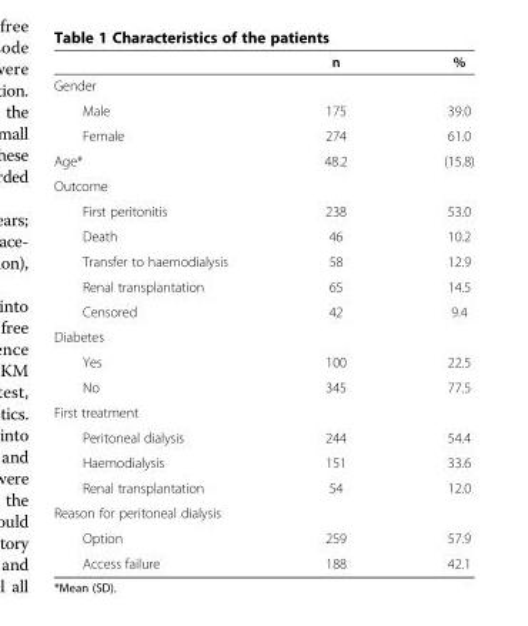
<table><thead><tr><td></td><td>n</td><td>%</td></tr></thead><tbody><tr><td colspan="3">Gender</td></tr><tr><td>Male</td><td>175</td><td>39.0</td></tr><tr><td>Female</td><td>274</td><td>61.0</td></tr><tr><td>Age*</td><td>48.2</td><td>(15.8)</td></tr><tr><td colspan="3">Outcome</td></tr><tr><td>First peritonitis</td><td>238</td><td>53.0</td></tr><tr><td>Death</td><td>46</td><td>10.2</td></tr><tr><td>Transfer to haemodialysis</td><td>58</td><td>12.9</td></tr><tr><td>Renal transplantation</td><td>65</td><td>14.5</td></tr><tr><td>Censored</td><td>42</td><td>9.4</td></tr><tr><td colspan="3">Diabetes</td></tr><tr><td>Yes</td><td>100</td><td>22.5</td></tr><tr><td>No</td><td>345</td><td>77.5</td></tr><tr><td colspan="3">First treatment</td></tr><tr><td>Peritoneal dialysis</td><td>244</td><td>54.4</td></tr><tr><td>Haemodialysis</td><td>151</td><td>33.6</td></tr><tr><td>Renal transplantation</td><td>54</td><td>12.0</td></tr><tr><td colspan="3">Reason for peritoneal dialysis</td></tr><tr><td>Option</td><td>259</td><td>57.9</td></tr><tr><td>Access failure</td><td>188</td><td>42.1</td></tr></tbody></table>